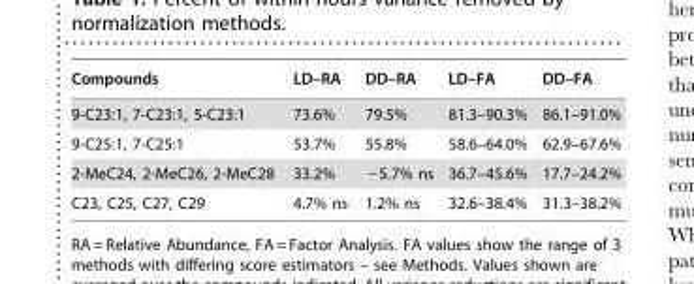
<table><thead><tr><td>Compounds</td><td>LD–RA</td><td>DD–RA</td><td>LD–FA</td><td>DD–FA</td></tr></thead><tbody><tr><td>9-C23:1, 7-C23:1, 5-C23:1</td><td>73.6%</td><td>79.5%</td><td>81.3–90.3%</td><td>86.1–91.0%</td></tr><tr><td>9-C25:1, 7-C25:1</td><td>53.7%</td><td>55.8%</td><td>58.6–64.0%</td><td>62.9–67.6%</td></tr><tr><td>2-MeC24, 2-MeC26, 2-MeC28</td><td>33.2%</td><td>−5.7% ns</td><td>36.7–45.6%</td><td>17.7–24.2%</td></tr><tr><td>C23, C25, C27, C29</td><td>4.7% ns</td><td>1.2% ns</td><td>32.6–38.4%</td><td>31.3–38.2%</td></tr></tbody></table>